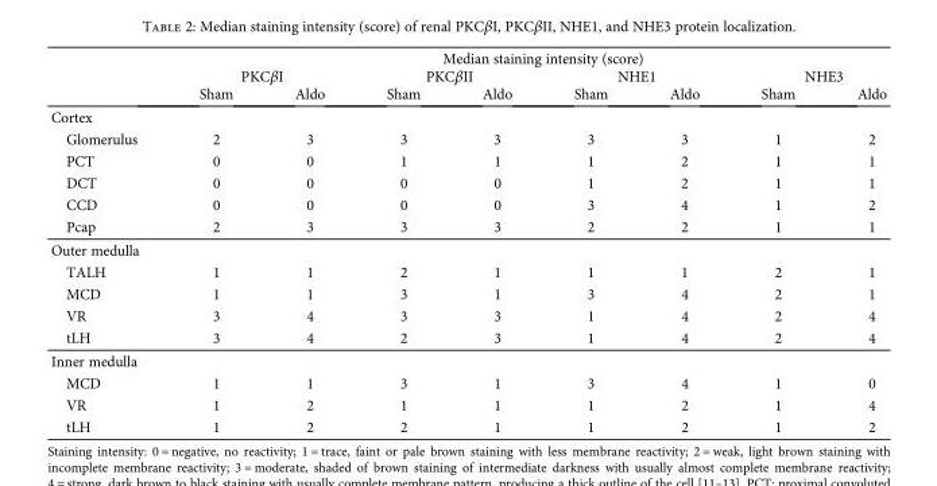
<table><thead><tr><td rowspan="3"></td><td colspan="8">Median staining intensity (score)</td></tr><tr><td colspan="2">PKCβI</td><td colspan="2">PKCβII</td><td colspan="2">NHE1</td><td colspan="2">NHE3</td></tr><tr><td>Sham</td><td>Aldo</td><td>Sham</td><td>Aldo</td><td>Sham</td><td>Aldo</td><td>Sham</td><td>Aldo</td></tr></thead><tbody><tr><td colspan="9">Cortex</td></tr><tr><td>Glomerulus</td><td>2</td><td>3</td><td>3</td><td>3</td><td>3</td><td>3</td><td>1</td><td>2</td></tr><tr><td>PCT</td><td>0</td><td>0</td><td>1</td><td>1</td><td>1</td><td>2</td><td>1</td><td>1</td></tr><tr><td>DCT</td><td>0</td><td>0</td><td>0</td><td>0</td><td>1</td><td>2</td><td>1</td><td>1</td></tr><tr><td>CCD</td><td>0</td><td>0</td><td>0</td><td>0</td><td>3</td><td>4</td><td>1</td><td>2</td></tr><tr><td>Pcap</td><td>2</td><td>3</td><td>3</td><td>3</td><td>2</td><td>2</td><td>1</td><td>1</td></tr><tr><td colspan="9">Outer medulla</td></tr><tr><td>TALH</td><td>1</td><td>1</td><td>2</td><td>1</td><td>1</td><td>1</td><td>2</td><td>1</td></tr><tr><td>MCD</td><td>1</td><td>1</td><td>3</td><td>1</td><td>3</td><td>4</td><td>2</td><td>1</td></tr><tr><td>VR</td><td>3</td><td>4</td><td>3</td><td>3</td><td>1</td><td>4</td><td>2</td><td>4</td></tr><tr><td>tLH</td><td>3</td><td>4</td><td>2</td><td>3</td><td>1</td><td>4</td><td>2</td><td>4</td></tr><tr><td colspan="9">Inner medulla</td></tr><tr><td>MCD</td><td>1</td><td>1</td><td>3</td><td>1</td><td>3</td><td>4</td><td>1</td><td>0</td></tr><tr><td>VR</td><td>1</td><td>2</td><td>1</td><td>1</td><td>1</td><td>2</td><td>1</td><td>4</td></tr><tr><td>tLH</td><td>1</td><td>2</td><td>2</td><td>1</td><td>1</td><td>2</td><td>1</td><td>2</td></tr></tbody></table>